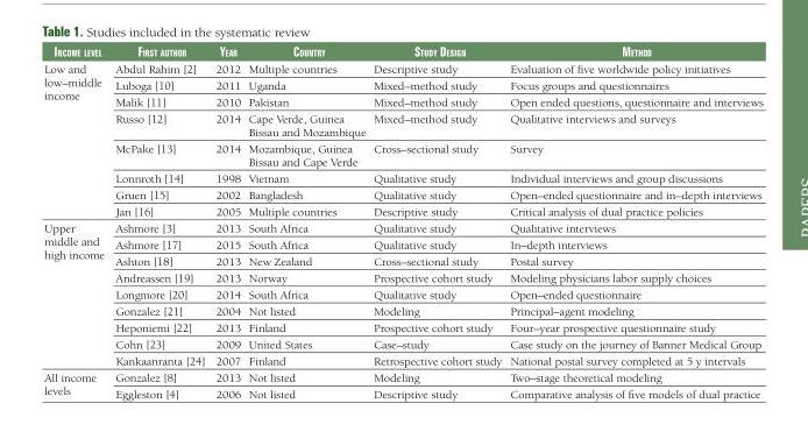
<table><thead><tr><td>Income level</td><td>FIrst author</td><td>Year</td><td>countrY</td><td>studY desIgn</td><td>method</td></tr></thead><tbody><tr><td rowspan="8">Low and low–middle income</td><td>Abdul Rahim [2]</td><td>2012</td><td>Multiple countries</td><td>Descriptive study</td><td>Evaluation of five worldwide policy initiatives</td></tr><tr><td>Luboga [10]</td><td>2011</td><td>Uganda</td><td>Mixed–method study</td><td>Focus groups and questionnaires</td></tr><tr><td>Malik [11]</td><td>2010</td><td>Pakistan</td><td>Mixed–method study</td><td>Open ended questions, questionnaire and interviews</td></tr><tr><td>Russo [12]</td><td>2014</td><td>Cape Verde, Guinea Bissau and Mozambique</td><td>Mixed–method study</td><td>Qualitative interviews and surveys</td></tr><tr><td>McPake [13]</td><td>2014</td><td>Mozambique, Guinea Bissau and Cape Verde</td><td>Cross–sectional study</td><td>Survey</td></tr><tr><td>Lonnroth [14]</td><td>1998</td><td>Vietnam</td><td>Qualitative study</td><td>Individual interviews and group discussions</td></tr><tr><td>Gruen [15]</td><td>2002</td><td>Bangladesh</td><td>Qualitative study</td><td>Open–ended questionnaire and in–depth interviews</td></tr><tr><td>Jan [16]</td><td>2005</td><td>Multiple countries</td><td>Descriptive study</td><td>Critical analysis of dual practice policies</td></tr><tr><td rowspan="9">Upper middle and high income</td><td>Ashmore [3]</td><td>2013</td><td>South Africa</td><td>Qualitative study</td><td>Qualitative interviews</td></tr><tr><td>Ashmore [17]</td><td>2015</td><td>South Africa</td><td>Qualitative study</td><td>In–depth interviews</td></tr><tr><td>Ashton [18]</td><td>2013</td><td>New Zealand</td><td>Cross–sectional study</td><td>Postal survey</td></tr><tr><td>Andreassen [19]</td><td>2013</td><td>Norway</td><td>Prospective cohort study</td><td>Modeling physicians labor supply choices</td></tr><tr><td>Longmore [20]</td><td>2014</td><td>South Africa</td><td>Qualitative study</td><td>Open–ended questionnaire</td></tr><tr><td>Gonzalez [21]</td><td>2004</td><td>Not listed</td><td>Modeling</td><td>Principal–agent modeling</td></tr><tr><td>Heponiemi [22]</td><td>2013</td><td>Finland</td><td>Prospective cohort study</td><td>Four–year prospective questionnaire study</td></tr><tr><td>Cohn [23]</td><td>2009</td><td>United States</td><td>Case–study</td><td>Case study on the journey of Banner Medical Group</td></tr><tr><td>Kankaanranta [24]</td><td>2007</td><td>Finland</td><td>Retrospective cohort study</td><td>National postal survey completed at 5 y intervals</td></tr><tr><td rowspan="2">All income levels</td><td>Gonzalez [8]</td><td>2013</td><td>Not listed</td><td>Modeling</td><td>Two–stage theoretical modeling</td></tr><tr><td>Eggleston [4]</td><td>2006</td><td>Not listed</td><td>Descriptive study</td><td>Comparative analysis of five models of dual practice</td></tr></tbody></table>